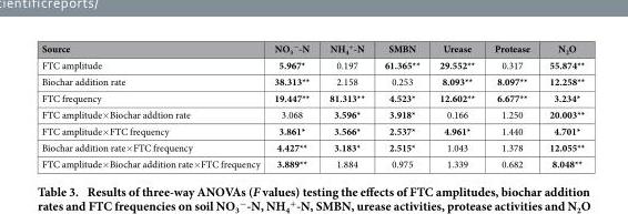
<table><thead><tr><td>Source</td><td>NO<sub>3</sub> <sup>−</sup>-N</td><td>NH<sub>4</sub> <sup>+</sup>-N</td><td>SMBN</td><td>Urease</td><td>Protease</td><td>N<sub>2</sub>O</td></tr></thead><tbody><tr><td>FTC amplitude</td><td>5.967*</td><td>0.197</td><td>61.365**</td><td>29.552**</td><td>0.317</td><td>55.874**</td></tr><tr><td>Biochar addition rate</td><td>38.313**</td><td>2.158</td><td>0.253</td><td>8.093**</td><td>8.097**</td><td>12.258**</td></tr><tr><td>FTC frequency</td><td>19.447**</td><td>81.313**</td><td>4.523*</td><td>12.602**</td><td>6.677**</td><td>3.234*</td></tr><tr><td>FTC amplitude× Biochar addtion rate</td><td>3.068</td><td>3.596*</td><td>3.918*</td><td>0.166</td><td>1.250</td><td>20.003**</td></tr><tr><td>FTC amplitude× FTC frequency</td><td>3.861*</td><td>3.566*</td><td>2.537*</td><td>4.961*</td><td>1.440</td><td>4.701*</td></tr><tr><td>Biochar addition rate× FTC frequency</td><td>4.427**</td><td>3.183*</td><td>2.515*</td><td>1.043</td><td>1.378</td><td>12.055**</td></tr><tr><td>FTC amplitude× Biochar addition rate× FTC frequency</td><td>3.889**</td><td>1.884</td><td>0.975</td><td>1.339</td><td>0.682</td><td>8.048**</td></tr></tbody></table>